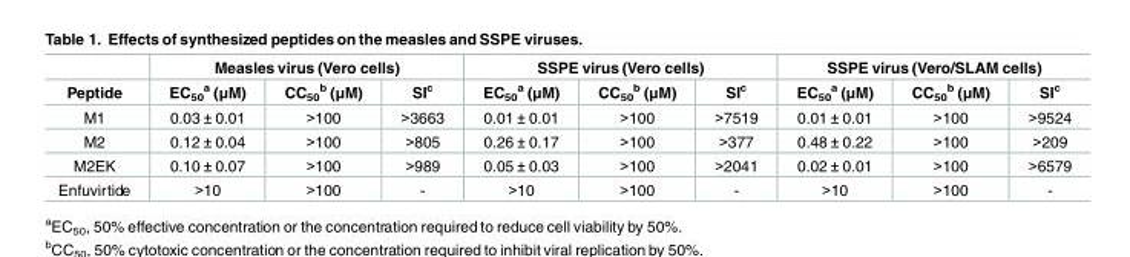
<table><thead><tr><td rowspan="2">Peptide</td><td colspan="3">Measles virus (Vero cells)</td><td colspan="3">SSPE virus (Vero cells)</td><td colspan="3">SSPE virus (Vero/SLAM cells)</td></tr><tr><td>EC<sub>50</sub> <sup>a</sup> (μM)</td><td>CC<sub>50</sub> <sup>b</sup> (μM)</td><td>SI<sup>c</sup></td><td>EC<sub>50</sub> <sup>a</sup> (μM)</td><td>CC<sub>50</sub> <sup>b</sup> (μM)</td><td>SI<sup>c</sup></td><td>EC<sub>50</sub> <sup>a</sup> (μM)</td><td>CC<sub>50</sub> <sup>b</sup> (μM)</td><td>SI<sup>c</sup></td></tr></thead><tbody><tr><td>M1</td><td>0.03 ± 0.01</td><td>&gt;100</td><td>&gt;3663</td><td>0.01 ± 0.01</td><td>&gt;100</td><td>&gt;7519</td><td>0.01 ± 0.01</td><td>&gt;100</td><td>&gt;9524</td></tr><tr><td>M2</td><td>0.12 ± 0.04</td><td>&gt;100</td><td>&gt;805</td><td>0.26 ± 0.17</td><td>&gt;100</td><td>&gt;377</td><td>0.48 ± 0.22</td><td>&gt;100</td><td>&gt;209</td></tr><tr><td>M2EK</td><td>0.10 ± 0.07</td><td>&gt;100</td><td>&gt;989</td><td>0.05 ± 0.03</td><td>&gt;100</td><td>&gt;2041</td><td>0.02 ± 0.01</td><td>&gt;100</td><td>&gt;6579</td></tr><tr><td>Enfuvirtide</td><td>&gt;10</td><td>&gt;100</td><td>-</td><td>&gt;10</td><td>&gt;100</td><td>-</td><td>&gt;10</td><td>&gt;100</td><td>-</td></tr></tbody></table>